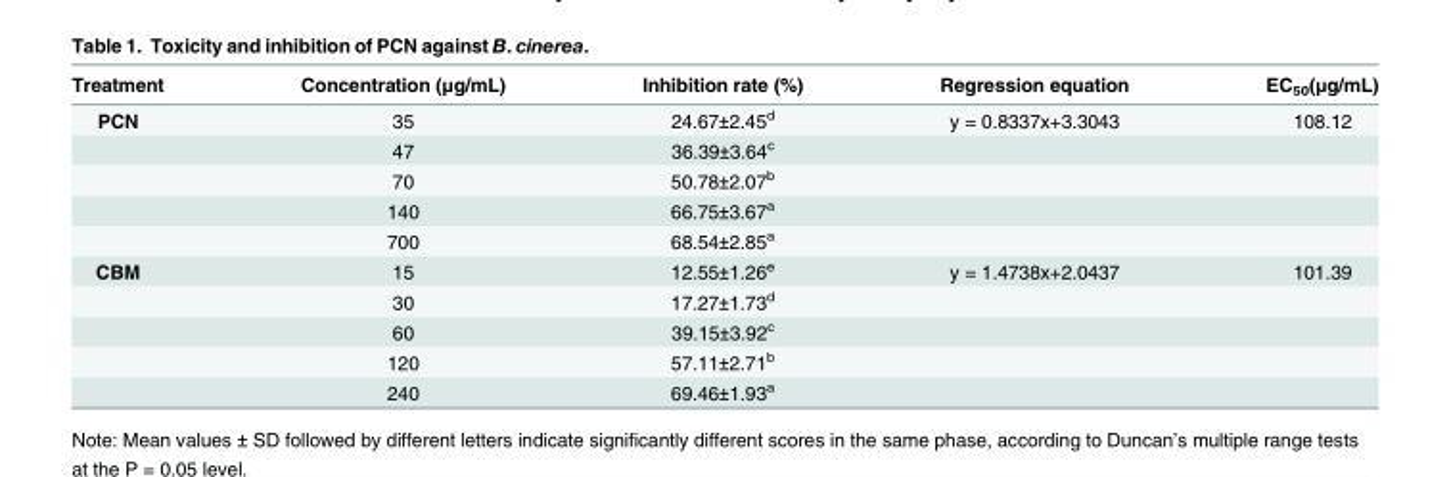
<table><thead><tr><td>Treatment</td><td>Concentration (μg/mL)</td><td>Inhibition rate (%)</td><td>Regression equation</td><td>EC<sub>50</sub>(μg/mL)</td></tr></thead><tbody><tr><td rowspan="5">PCN</td><td>35</td><td>24.67±2.45<sup>d</sup></td><td>y = 0.8337x+3.3043</td><td>108.12</td></tr><tr><td>47</td><td>36.39±3.64<sup>c</sup></td><td></td><td></td></tr><tr><td>70</td><td>50.78±2.07<sup>b</sup></td><td></td><td></td></tr><tr><td>140</td><td>66.75±3.67<sup>a</sup></td><td></td><td></td></tr><tr><td>700</td><td>68.54±2.85<sup>a</sup></td><td></td><td></td></tr><tr><td rowspan="5">CBM</td><td>15</td><td>12.55±1.26<sup>e</sup></td><td>y = 1.4738x+2.0437</td><td>101.39</td></tr><tr><td>30</td><td>17.27±1.73<sup>d</sup></td><td></td><td></td></tr><tr><td>60</td><td>39.15±3.92<sup>c</sup></td><td></td><td></td></tr><tr><td>120</td><td>57.11±2.71<sup>b</sup></td><td></td><td></td></tr><tr><td>240</td><td>69.46±1.93<sup>a</sup></td><td></td><td></td></tr></tbody></table>